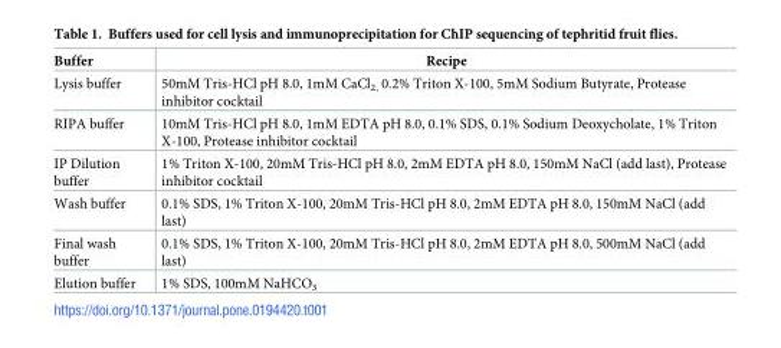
<table><thead><tr><td>Buffer</td><td>Recipe</td></tr></thead><tbody><tr><td>Lysis buffer</td><td>50mM Tris-HCl pH 8.0, 1mM CaCl<sub>2,</sub> 0.2% Triton X-100, 5mM Sodium Butyrate, Protease inhibitor cocktail</td></tr><tr><td>RIPA buffer</td><td>10mM Tris-HCl pH 8.0, 1mM EDTA pH 8.0, 0.1% SDS, 0.1% Sodium Deoxycholate, 1% Triton X-100, Protease inhibitor cocktail</td></tr><tr><td>IP Dilution buffer</td><td>1% Triton X-100, 20mM Tris-HCl pH 8.0, 2mM EDTA pH 8.0, 150mM NaCl (add last), Protease inhibitor cocktail</td></tr><tr><td>Wash buffer</td><td>0.1% SDS, 1% Triton X-100, 20mM Tris-HCl pH 8.0, 2mM EDTA pH 8.0, 150mM NaCl (add last)</td></tr><tr><td>Final wash buffer</td><td>0.1% SDS, 1% Triton X-100, 20mM Tris-HCl pH 8.0, 2mM EDTA pH 8.0, 500mM NaCl (add last)</td></tr><tr><td>Elution buffer</td><td>1% SDS, 100mM NaHCO<sub>3</sub></td></tr></tbody></table>